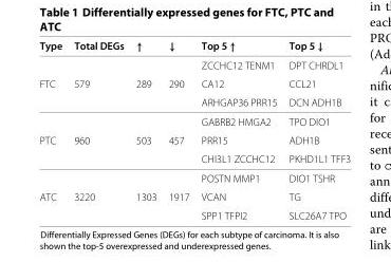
<table><thead><tr><td>Type</td><td>Total DEGs</td><td>↑</td><td>↓</td><td>Top 5 ↑</td><td>Top 5 ↓</td></tr></thead><tbody><tr><td></td><td></td><td></td><td></td><td>ZCCHC12 TENM1</td><td>DPT CHRDL1</td></tr><tr><td rowspan="3">FTC</td><td>579</td><td>289</td><td>290</td><td>CA12</td><td>CCL21</td></tr><tr><td></td><td></td><td></td><td>ARHGAP36 PRR15</td><td>DCN ADH1B</td></tr><tr><td></td><td></td><td></td><td>GABRB2 HMGA2</td><td>TPO DIO1</td></tr><tr><td rowspan="3">PTC</td><td>960</td><td>503</td><td>457</td><td>PRR15</td><td>ADH1B</td></tr><tr><td></td><td></td><td></td><td>CHI3L1 ZCCHC12</td><td>PKHD1L1 TFF3</td></tr><tr><td></td><td></td><td></td><td>POSTN MMP1</td><td>DIO1 TSHR</td></tr><tr><td rowspan="2">ATC</td><td>3220</td><td>1303</td><td>1917</td><td>VCAN</td><td>TG</td></tr><tr><td></td><td></td><td></td><td>SPP1 TFPI2</td><td>SLC26A7 TPO</td></tr></tbody></table>